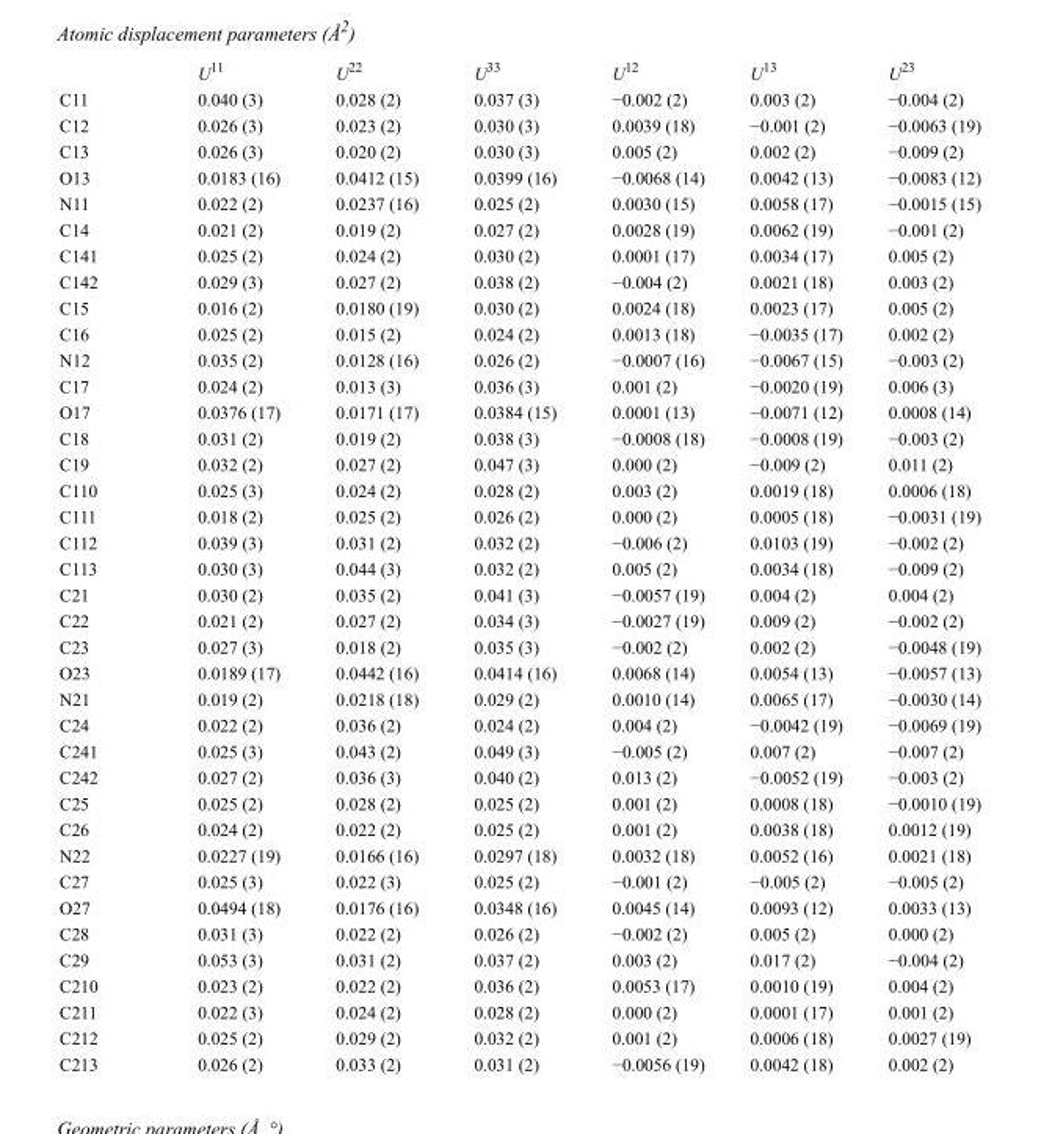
<table><thead><tr><td></td><td>U<sup>11</sup></td><td>U<sup>22</sup></td><td>U<sup>33</sup></td><td>U<sup>12</sup></td><td>U<sup>13</sup></td><td>U<sup>23</sup></td></tr></thead><tbody><tr><td>C11</td><td>0.040 (3)</td><td>0.028 (2)</td><td>0.037 (3)</td><td>−0.002 (2)</td><td>0.003 (2)</td><td>−0.004 (2)</td></tr><tr><td>C12</td><td>0.026 (3)</td><td>0.023 (2)</td><td>0.030 (3)</td><td>0.0039 (18)</td><td>−0.001 (2)</td><td>−0.0063 (19)</td></tr><tr><td>C13</td><td>0.026 (3)</td><td>0.020 (2)</td><td>0.030 (3)</td><td>0.005 (2)</td><td>0.002 (2)</td><td>−0.009 (2)</td></tr><tr><td>O13</td><td>0.0183 (16)</td><td>0.0412 (15)</td><td>0.0399 (16)</td><td>−0.0068 (14)</td><td>0.0042 (13)</td><td>−0.0083 (12)</td></tr><tr><td>N11</td><td>0.022 (2)</td><td>0.0237 (16)</td><td>0.025 (2)</td><td>0.0030 (15)</td><td>0.0058 (17)</td><td>−0.0015 (15)</td></tr><tr><td>C14</td><td>0.021 (2)</td><td>0.019 (2)</td><td>0.027 (2)</td><td>0.0028 (19)</td><td>0.0062 (19)</td><td>−0.001 (2)</td></tr><tr><td>C141</td><td>0.025 (2)</td><td>0.024 (2)</td><td>0.030 (2)</td><td>0.0001 (17)</td><td>0.0034 (17)</td><td>0.005 (2)</td></tr><tr><td>C142</td><td>0.029 (3)</td><td>0.027 (2)</td><td>0.038 (2)</td><td>−0.004 (2)</td><td>0.0021 (18)</td><td>0.003 (2)</td></tr><tr><td>C15</td><td>0.016 (2)</td><td>0.0180 (19)</td><td>0.030 (2)</td><td>0.0024 (18)</td><td>0.0023 (17)</td><td>0.005 (2)</td></tr><tr><td>C16</td><td>0.025 (2)</td><td>0.015 (2)</td><td>0.024 (2)</td><td>0.0013 (18)</td><td>−0.0035 (17)</td><td>0.002 (2)</td></tr><tr><td>N12</td><td>0.035 (2)</td><td>0.0128 (16)</td><td>0.026 (2)</td><td>−0.0007 (16)</td><td>−0.0067 (15)</td><td>−0.003 (2)</td></tr><tr><td>C17</td><td>0.024 (2)</td><td>0.013 (3)</td><td>0.036 (3)</td><td>0.001 (2)</td><td>−0.0020 (19)</td><td>0.006 (3)</td></tr><tr><td>O17</td><td>0.0376 (17)</td><td>0.0171 (17)</td><td>0.0384 (15)</td><td>0.0001 (13)</td><td>−0.0071 (12)</td><td>0.0008 (14)</td></tr><tr><td>C18</td><td>0.031 (2)</td><td>0.019 (2)</td><td>0.038 (3)</td><td>−0.0008 (18)</td><td>−0.0008 (19)</td><td>−0.003 (2)</td></tr><tr><td>C19</td><td>0.032 (2)</td><td>0.027 (2)</td><td>0.047 (3)</td><td>0.000 (2)</td><td>−0.009 (2)</td><td>0.011 (2)</td></tr><tr><td>C110</td><td>0.025 (3)</td><td>0.024 (2)</td><td>0.028 (2)</td><td>0.003 (2)</td><td>0.0019 (18)</td><td>0.0006 (18)</td></tr><tr><td>C111</td><td>0.018 (2)</td><td>0.025 (2)</td><td>0.026 (2)</td><td>0.000 (2)</td><td>0.0005 (18)</td><td>−0.0031 (19)</td></tr><tr><td>C112</td><td>0.039 (3)</td><td>0.031 (2)</td><td>0.032 (2)</td><td>−0.006 (2)</td><td>0.0103 (19)</td><td>−0.002 (2)</td></tr><tr><td>C113</td><td>0.030 (3)</td><td>0.044 (3)</td><td>0.032 (2)</td><td>0.005 (2)</td><td>0.0034 (18)</td><td>−0.009 (2)</td></tr><tr><td>C21</td><td>0.030 (2)</td><td>0.035 (2)</td><td>0.041 (3)</td><td>−0.0057 (19)</td><td>0.004 (2)</td><td>0.004 (2)</td></tr><tr><td>C22</td><td>0.021 (2)</td><td>0.027 (2)</td><td>0.034 (3)</td><td>−0.0027 (19)</td><td>0.009 (2)</td><td>−0.002 (2)</td></tr><tr><td>C23</td><td>0.027 (3)</td><td>0.018 (2)</td><td>0.035 (3)</td><td>−0.002 (2)</td><td>0.002 (2)</td><td>−0.0048 (19)</td></tr><tr><td>O23</td><td>0.0189 (17)</td><td>0.0442 (16)</td><td>0.0414 (16)</td><td>0.0068 (14)</td><td>0.0054 (13)</td><td>−0.0057 (13)</td></tr><tr><td>N21</td><td>0.019 (2)</td><td>0.0218 (18)</td><td>0.029 (2)</td><td>0.0010 (14)</td><td>0.0065 (17)</td><td>−0.0030 (14)</td></tr><tr><td>C24</td><td>0.022 (2)</td><td>0.036 (2)</td><td>0.024 (2)</td><td>0.004 (2)</td><td>−0.0042 (19)</td><td>−0.0069 (19)</td></tr><tr><td>C241</td><td>0.025 (3)</td><td>0.043 (2)</td><td>0.049 (3)</td><td>−0.005 (2)</td><td>0.007 (2)</td><td>−0.007 (2)</td></tr><tr><td>C242</td><td>0.027 (2)</td><td>0.036 (3)</td><td>0.040 (2)</td><td>0.013 (2)</td><td>−0.0052 (19)</td><td>−0.003 (2)</td></tr><tr><td>C25</td><td>0.025 (2)</td><td>0.028 (2)</td><td>0.025 (2)</td><td>0.001 (2)</td><td>0.0008 (18)</td><td>−0.0010 (19)</td></tr><tr><td>C26</td><td>0.024 (2)</td><td>0.022 (2)</td><td>0.025 (2)</td><td>0.001 (2)</td><td>0.0038 (18)</td><td>0.0012 (19)</td></tr><tr><td>N22</td><td>0.0227 (19)</td><td>0.0166 (16)</td><td>0.0297 (18)</td><td>0.0032 (18)</td><td>0.0052 (16)</td><td>0.0021 (18)</td></tr><tr><td>C27</td><td>0.025 (3)</td><td>0.022 (3)</td><td>0.025 (2)</td><td>−0.001 (2)</td><td>−0.005 (2)</td><td>−0.005 (2)</td></tr><tr><td>O27</td><td>0.0494 (18)</td><td>0.0176 (16)</td><td>0.0348 (16)</td><td>0.0045 (14)</td><td>0.0093 (12)</td><td>0.0033 (13)</td></tr><tr><td>C28</td><td>0.031 (3)</td><td>0.022 (2)</td><td>0.026 (2)</td><td>−0.002 (2)</td><td>0.005 (2)</td><td>0.000 (2)</td></tr><tr><td>C29</td><td>0.053 (3)</td><td>0.031 (2)</td><td>0.037 (2)</td><td>0.003 (2)</td><td>0.017 (2)</td><td>−0.004 (2)</td></tr><tr><td>C210</td><td>0.023 (2)</td><td>0.022 (2)</td><td>0.036 (2)</td><td>0.0053 (17)</td><td>0.0010 (19)</td><td>0.004 (2)</td></tr><tr><td>C211</td><td>0.022 (3)</td><td>0.024 (2)</td><td>0.028 (2)</td><td>0.000 (2)</td><td>0.0001 (17)</td><td>0.001 (2)</td></tr><tr><td>C212</td><td>0.025 (2)</td><td>0.029 (2)</td><td>0.032 (2)</td><td>0.001 (2)</td><td>0.0006 (18)</td><td>0.0027 (19)</td></tr><tr><td>C213</td><td>0.026 (2)</td><td>0.033 (2)</td><td>0.031 (2)</td><td>−0.0056 (19)</td><td>0.0042 (18)</td><td>0.002 (2)</td></tr></tbody></table>